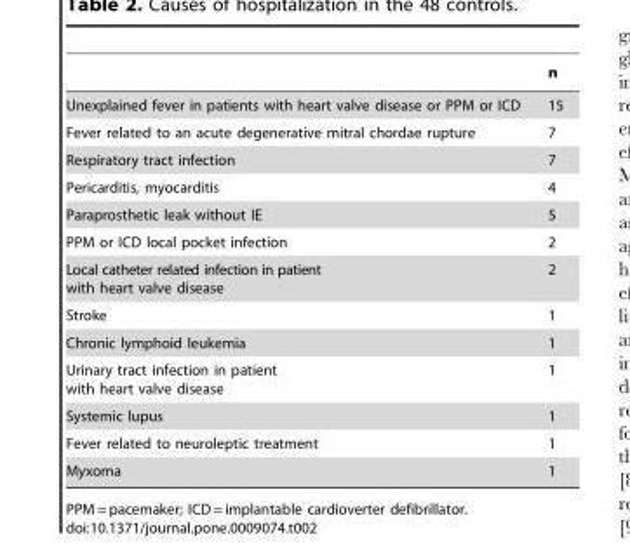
<table><thead><tr><td></td><td>n</td></tr></thead><tbody><tr><td>Unexplained fever in patients with heart valve disease or PPM or ICD</td><td>15</td></tr><tr><td>Fever related to an acute degenerative mitral chordae rupture</td><td>7</td></tr><tr><td>Respiratory tract infection</td><td>7</td></tr><tr><td>Pericarditis, myocarditis</td><td>4</td></tr><tr><td>Paraprosthetic leak without IE</td><td>5</td></tr><tr><td>PPM or ICD local pocket infection</td><td>2</td></tr><tr><td>Local catheter related infection in patient with heart valve disease</td><td>2</td></tr><tr><td>Stroke</td><td>1</td></tr><tr><td>Chronic lymphoid leukemia</td><td>1</td></tr><tr><td>Urinary tract infection in patient with heart valve disease</td><td>1</td></tr><tr><td>Systemic lupus</td><td>1</td></tr><tr><td>Fever related to neuroleptic treatment</td><td>1</td></tr><tr><td>Myxoma</td><td>1</td></tr></tbody></table>